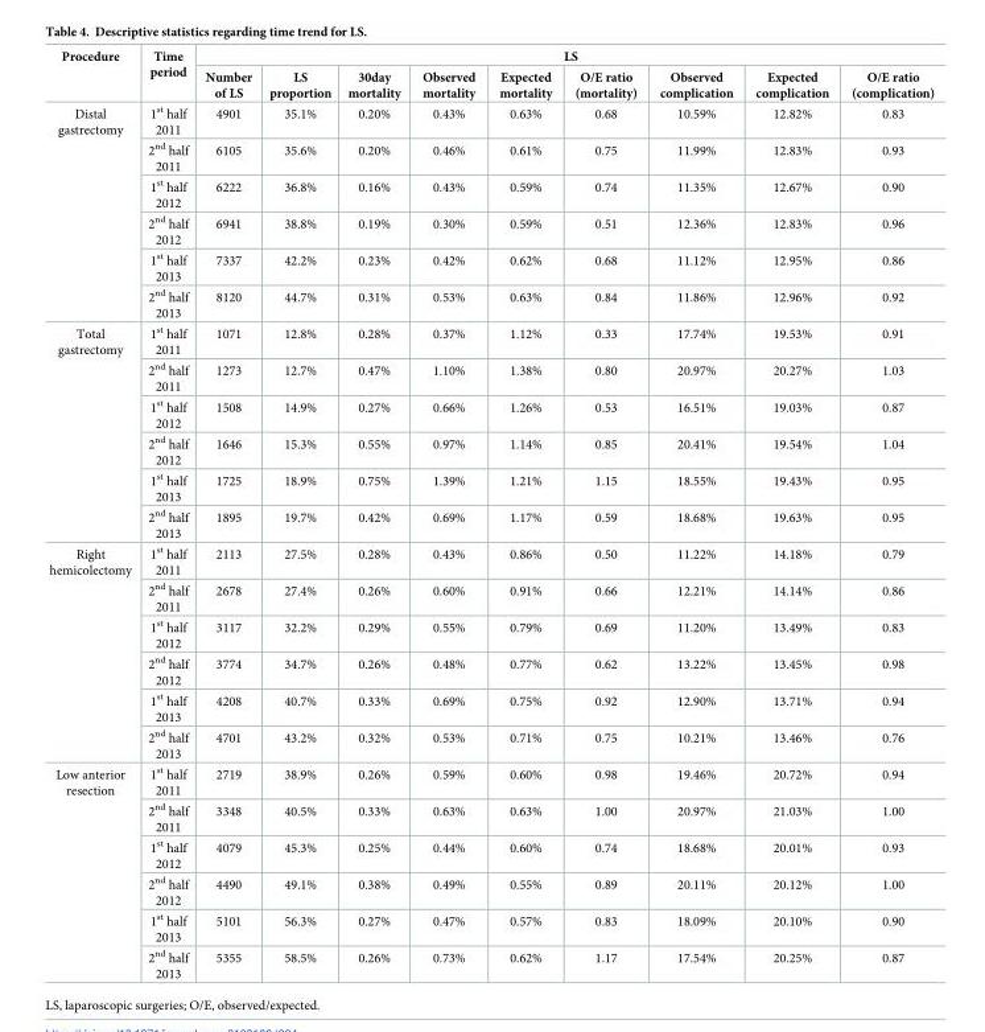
<table><thead><tr><td rowspan="2">Procedure</td><td rowspan="2">Time period</td><td colspan="9">LS</td></tr><tr><td>Number of LS</td><td>LS proportion</td><td>30day mortality</td><td>Observed mortality</td><td>Expected mortality</td><td>O/E ratio (mortality)</td><td>Observed complication</td><td>Expected complication</td><td>O/E ratio (complication)</td></tr></thead><tbody><tr><td rowspan="6">Distal gastrectomy</td><td>1<sup>st</sup> half 2011</td><td>4901</td><td>35.1%</td><td>0.20%</td><td>0.43%</td><td>0.63%</td><td>0.68</td><td>10.59%</td><td>12.82%</td><td>0.83</td></tr><tr><td>2<sup>nd</sup> half 2011</td><td>6105</td><td>35.6%</td><td>0.20%</td><td>0.46%</td><td>0.61%</td><td>0.75</td><td>11.99%</td><td>12.83%</td><td>0.93</td></tr><tr><td>1<sup>st</sup> half 2012</td><td>6222</td><td>36.8%</td><td>0.16%</td><td>0.43%</td><td>0.59%</td><td>0.74</td><td>11.35%</td><td>12.67%</td><td>0.90</td></tr><tr><td>2<sup>nd</sup> half 2012</td><td>6941</td><td>38.8%</td><td>0.19%</td><td>0.30%</td><td>0.59%</td><td>0.51</td><td>12.36%</td><td>12.83%</td><td>0.96</td></tr><tr><td>1<sup>st</sup> half 2013</td><td>7337</td><td>42.2%</td><td>0.23%</td><td>0.42%</td><td>0.62%</td><td>0.68</td><td>11.12%</td><td>12.95%</td><td>0.86</td></tr><tr><td>2<sup>nd</sup> half 2013</td><td>8120</td><td>44.7%</td><td>0.31%</td><td>0.53%</td><td>0.63%</td><td>0.84</td><td>11.86%</td><td>12.96%</td><td>0.92</td></tr><tr><td rowspan="6">Total gastrectomy</td><td>1<sup>st</sup> half 2011</td><td>1071</td><td>12.8%</td><td>0.28%</td><td>0.37%</td><td>1.12%</td><td>0.33</td><td>17.74%</td><td>19.53%</td><td>0.91</td></tr><tr><td>2<sup>nd</sup> half 2011</td><td>1273</td><td>12.7%</td><td>0.47%</td><td>1.10%</td><td>1.38%</td><td>0.80</td><td>20.97%</td><td>20.27%</td><td>1.03</td></tr><tr><td>1<sup>st</sup> half 2012</td><td>1508</td><td>14.9%</td><td>0.27%</td><td>0.66%</td><td>1.26%</td><td>0.53</td><td>16.51%</td><td>19.03%</td><td>0.87</td></tr><tr><td>2<sup>nd</sup> half 2012</td><td>1646</td><td>15.3%</td><td>0.55%</td><td>0.97%</td><td>1.14%</td><td>0.85</td><td>20.41%</td><td>19.54%</td><td>1.04</td></tr><tr><td>1<sup>st</sup> half 2013</td><td>1725</td><td>18.9%</td><td>0.75%</td><td>1.39%</td><td>1.21%</td><td>1.15</td><td>18.55%</td><td>19.43%</td><td>0.95</td></tr><tr><td>2<sup>nd</sup> half 2013</td><td>1895</td><td>19.7%</td><td>0.42%</td><td>0.69%</td><td>1.17%</td><td>0.59</td><td>18.68%</td><td>19.63%</td><td>0.95</td></tr><tr><td rowspan="6">Right hemicolectomy</td><td>1<sup>st</sup> half 2011</td><td>2113</td><td>27.5%</td><td>0.28%</td><td>0.43%</td><td>0.86%</td><td>0.50</td><td>11.22%</td><td>14.18%</td><td>0.79</td></tr><tr><td>2<sup>nd</sup> half 2011</td><td>2678</td><td>27.4%</td><td>0.26%</td><td>0.60%</td><td>0.91%</td><td>0.66</td><td>12.21%</td><td>14.14%</td><td>0.86</td></tr><tr><td>1<sup>st</sup> half 2012</td><td>3117</td><td>32.2%</td><td>0.29%</td><td>0.55%</td><td>0.79%</td><td>0.69</td><td>11.20%</td><td>13.49%</td><td>0.83</td></tr><tr><td>2<sup>nd</sup> half 2012</td><td>3774</td><td>34.7%</td><td>0.26%</td><td>0.48%</td><td>0.77%</td><td>0.62</td><td>13.22%</td><td>13.45%</td><td>0.98</td></tr><tr><td>1<sup>st</sup> half 2013</td><td>4208</td><td>40.7%</td><td>0.33%</td><td>0.69%</td><td>0.75%</td><td>0.92</td><td>12.90%</td><td>13.71%</td><td>0.94</td></tr><tr><td>2<sup>nd</sup> half 2013</td><td>4701</td><td>43.2%</td><td>0.32%</td><td>0.53%</td><td>0.71%</td><td>0.75</td><td>10.21%</td><td>13.46%</td><td>0.76</td></tr><tr><td rowspan="6">Low anterior resection</td><td>1<sup>st</sup> half 2011</td><td>2719</td><td>38.9%</td><td>0.26%</td><td>0.59%</td><td>0.60%</td><td>0.98</td><td>19.46%</td><td>20.72%</td><td>0.94</td></tr><tr><td>2<sup>nd</sup> half 2011</td><td>3348</td><td>40.5%</td><td>0.33%</td><td>0.63%</td><td>0.63%</td><td>1.00</td><td>20.97%</td><td>21.03%</td><td>1.00</td></tr><tr><td>1<sup>st</sup> half 2012</td><td>4079</td><td>45.3%</td><td>0.25%</td><td>0.44%</td><td>0.60%</td><td>0.74</td><td>18.68%</td><td>20.01%</td><td>0.93</td></tr><tr><td>2<sup>nd</sup> half 2012</td><td>4490</td><td>49.1%</td><td>0.38%</td><td>0.49%</td><td>0.55%</td><td>0.89</td><td>20.11%</td><td>20.12%</td><td>1.00</td></tr><tr><td>1<sup>st</sup> half 2013</td><td>5101</td><td>56.3%</td><td>0.27%</td><td>0.47%</td><td>0.57%</td><td>0.83</td><td>18.09%</td><td>20.10%</td><td>0.90</td></tr><tr><td>2<sup>nd</sup> half 2013</td><td>5355</td><td>58.5%</td><td>0.26%</td><td>0.73%</td><td>0.62%</td><td>1.17</td><td>17.54%</td><td>20.25%</td><td>0.87</td></tr></tbody></table>